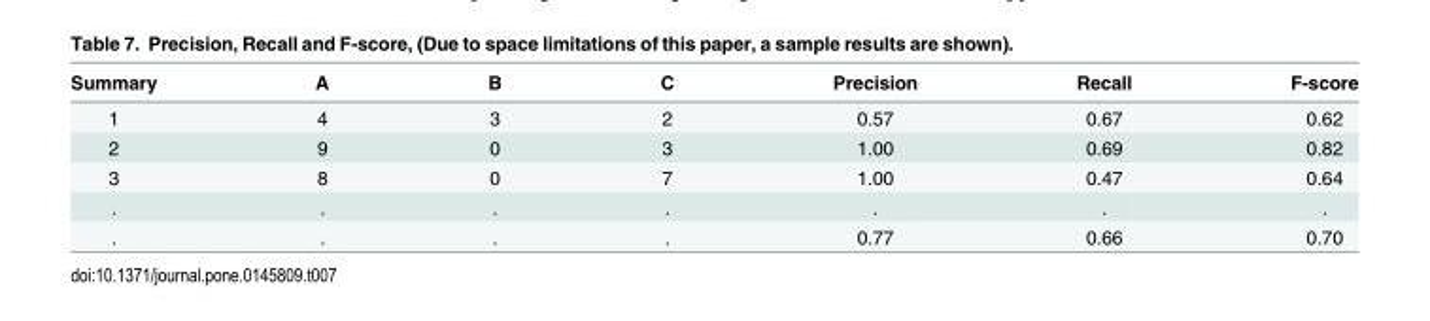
<table><thead><tr><td>Summary</td><td>A</td><td>B</td><td>C</td><td>Precision</td><td>Recall</td><td>F-score</td></tr></thead><tbody><tr><td>1</td><td>4</td><td>3</td><td>2</td><td>0.57</td><td>0.67</td><td>0.62</td></tr><tr><td>2</td><td>9</td><td>0</td><td>3</td><td>1.00</td><td>0.69</td><td>0.82</td></tr><tr><td>3</td><td>8</td><td>0</td><td>7</td><td>1.00</td><td>0.47</td><td>0.64</td></tr><tr><td>.</td><td>.</td><td>.</td><td>.</td><td>.</td><td>.</td><td>.</td></tr><tr><td>.</td><td>.</td><td>.</td><td>.</td><td>0.77</td><td>0.66</td><td>0.70</td></tr></tbody></table>